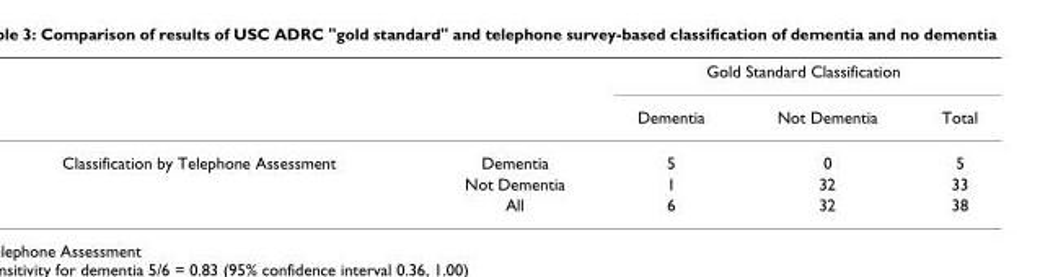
<table><thead><tr><td rowspan="2"></td><td rowspan="2"></td><td colspan="3">Gold Standard Classification</td></tr><tr><td>Dementia</td><td>Not Dementia</td><td>Total</td></tr></thead><tbody><tr><td rowspan="3">Classification by Telephone Assessment</td><td>Dementia</td><td>5</td><td>0</td><td>5</td></tr><tr><td>Not Dementia</td><td>1</td><td>32</td><td>33</td></tr><tr><td>All</td><td>6</td><td>32</td><td>38</td></tr></tbody></table>